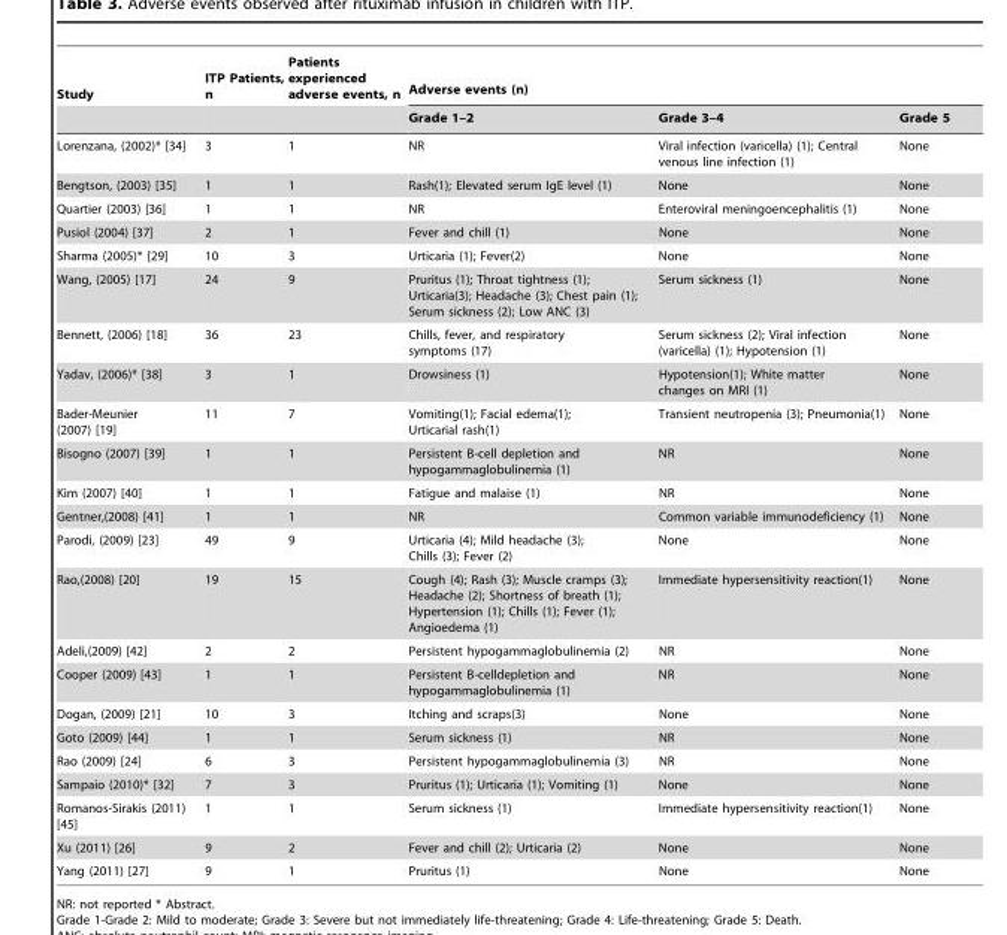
<table><thead><tr><td rowspan="2">Study</td><td rowspan="2">ITP Patients, n</td><td rowspan="2">Patients experienced adverse events, n</td><td colspan="3">Adverse events (n)</td></tr><tr><td>Grade 1–2</td><td>Grade 3–4</td><td>Grade 5</td></tr></thead><tbody><tr><td>Lorenzana, (2002)* [34]</td><td>3</td><td>1</td><td>NR</td><td>Viral infection (varicella) (1); Central venous line infection (1)</td><td>None</td></tr><tr><td>Bengtson, (2003) [35]</td><td>1</td><td>1</td><td>Rash(1); Elevated serum IgE level (1)</td><td>None</td><td>None</td></tr><tr><td>Quartier (2003) [36]</td><td>1</td><td>1</td><td>NR</td><td>Enteroviral meningoencephalitis (1)</td><td>None</td></tr><tr><td>Pusiol (2004) [37]</td><td>2</td><td>1</td><td>Fever and chill (1)</td><td>None</td><td>None</td></tr><tr><td>Sharma (2005)* [29]</td><td>10</td><td>3</td><td>Urticaria (1); Fever(2)</td><td>None</td><td>None</td></tr><tr><td>Wang, (2005) [17]</td><td>24</td><td>9</td><td>Pruritus (1); Throat tightness (1); Urticaria(3); Headache (3); Chest pain (1); Serum sickness (2); Low ANC (3)</td><td>Serum sickness (1)</td><td>None</td></tr><tr><td>Bennett, (2006) [18]</td><td>36</td><td>23</td><td>Chills, fever, and respiratory symptoms (17)</td><td>Serum sickness (2); Viral infection (varicella) (1); Hypotension (1)</td><td>None</td></tr><tr><td>Yadav, (2006)* [38]</td><td>3</td><td>1</td><td>Drowsiness (1)</td><td>Hypotension(1); White matter changes on MRI (1)</td><td>None</td></tr><tr><td>Bader-Meunier (2007) [19]</td><td>11</td><td>7</td><td>Vomiting(1); Facial edema(1); Urticarial rash(1)</td><td>Transient neutropenia (3); Pneumonia(1)</td><td>None</td></tr><tr><td>Bisogno (2007) [39]</td><td>1</td><td>1</td><td>Persistent B-cell depletion and hypogammaglobulinemia (1)</td><td>NR</td><td>None</td></tr><tr><td>Kim (2007) [40]</td><td>1</td><td>1</td><td>Fatigue and malaise (1)</td><td>NR</td><td>None</td></tr><tr><td>Gentner,(2008) [41]</td><td>1</td><td>1</td><td>NR</td><td>Common variable immunodeficiency (1)</td><td>None</td></tr><tr><td>Parodi, (2009) [23]</td><td>49</td><td>9</td><td>Urticaria (4); Mild headache (3); Chills (3); Fever (2)</td><td>None</td><td>None</td></tr><tr><td>Rao,(2008) [20]</td><td>19</td><td>15</td><td>Cough (4); Rash (3); Muscle cramps (3); Headache (2); Shortness of breath (1); Hypertension (1); Chills (1); Fever (1); Angioedema (1)</td><td>Immediate hypersensitivity reaction(1)</td><td>None</td></tr><tr><td>Adeli,(2009) [42]</td><td>2</td><td>2</td><td>Persistent hypogammaglobulinemia (2)</td><td>NR</td><td>None</td></tr><tr><td>Cooper (2009) [43]</td><td>1</td><td>1</td><td>Persistent B-celldepletion and hypogammaglobulinemia (1)</td><td>NR</td><td>None</td></tr><tr><td>Dogan, (2009) [21]</td><td>10</td><td>3</td><td>Itching and scraps(3)</td><td>None</td><td>None</td></tr><tr><td>Goto (2009) [44]</td><td>1</td><td>1</td><td>Serum sickness (1)</td><td>NR</td><td>None</td></tr><tr><td>Rao (2009) [24]</td><td>6</td><td>3</td><td>Persistent hypogammaglobulinemia (3)</td><td>NR</td><td>None</td></tr><tr><td>Sampaio (2010)* [32]</td><td>7</td><td>3</td><td>Pruritus (1); Urticaria (1); Vomiting (1)</td><td>None</td><td>None</td></tr><tr><td>Romanos-Sirakis (2011) [45]</td><td>1</td><td>1</td><td>Serum sickness (1)</td><td>Immediate hypersensitivity reaction(1)</td><td>None</td></tr><tr><td>Xu (2011) [26]</td><td>9</td><td>2</td><td>Fever and chill (2); Urticaria (2)</td><td>None</td><td>None</td></tr><tr><td>Yang (2011) [27]</td><td>9</td><td>1</td><td>Pruritus (1)</td><td>None</td><td>None</td></tr></tbody></table>